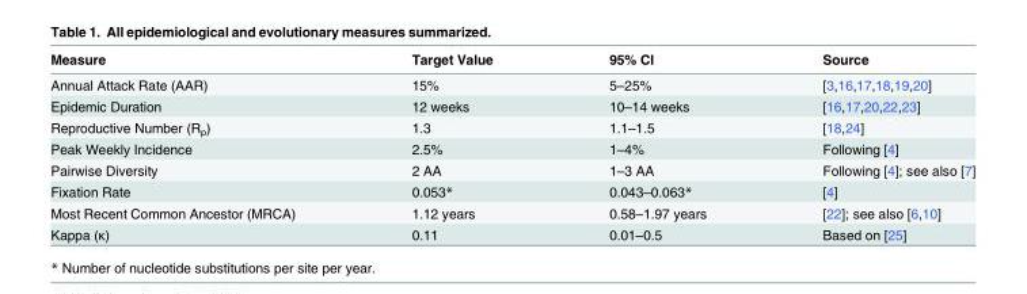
<table><thead><tr><td>Measure</td><td>Target Value</td><td>95% CI</td><td>Source</td></tr></thead><tbody><tr><td>Annual Attack Rate (AAR)</td><td>15%</td><td>5–25%</td><td>[3,16,17,18,19,20]</td></tr><tr><td>Epidemic Duration</td><td>12 weeks</td><td>10–14 weeks</td><td>[16,17,20,22,23]</td></tr><tr><td>Reproductive Number (R<sub>p</sub>)</td><td>1.3</td><td>1.1–1.5</td><td>[18,24]</td></tr><tr><td>Peak Weekly Incidence</td><td>2.5%</td><td>1–4%</td><td>Following [4]</td></tr><tr><td>Pairwise Diversity</td><td>2 AA</td><td>1–3 AA</td><td>Following [4]; see also [7]</td></tr><tr><td>Fixation Rate</td><td>0.053*</td><td>0.043–0.063*</td><td>[4]</td></tr><tr><td>Most Recent Common Ancestor (MRCA)</td><td>1.12 years</td><td>0.58–1.97 years</td><td>[22]; see also [6,10]</td></tr><tr><td>Kappa (κ)</td><td>0.11</td><td>0.01–0.5</td><td>Based on [25]</td></tr></tbody></table>